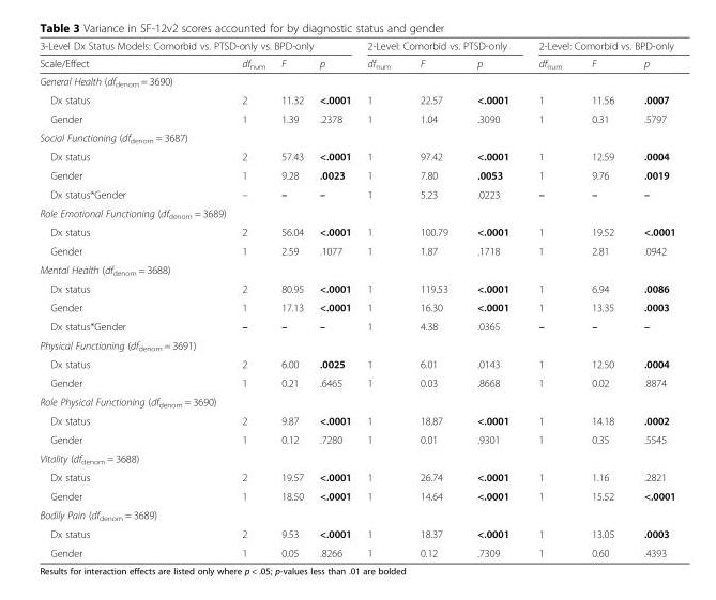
<table><thead><tr><td colspan="4">3-Level Dx Status Models: Comorbid vs. PTSD-only vs. BPD-only</td><td colspan="3">2-Level: Comorbid vs. PTSD-only</td><td colspan="3">2-Level: Comorbid vs. BPD-only</td></tr><tr><td>Scale/Effect</td><td>df<sub>num</sub></td><td>F</td><td>p</td><td>df<sub>num</sub></td><td>F</td><td>p</td><td>df<sub>num</sub></td><td>F</td><td>p</td></tr></thead><tbody><tr><td colspan="10">General Health (df<sub>denom</sub> = 3690)</td></tr><tr><td>Dx status</td><td>2</td><td>11.32</td><td>&lt;.0001</td><td>1</td><td>22.57</td><td>&lt;.0001</td><td>1</td><td>11.56</td><td>.0007</td></tr><tr><td>Gender</td><td>1</td><td>1.39</td><td>.2378</td><td>1</td><td>1.04</td><td>.3090</td><td>1</td><td>0.31</td><td>.5797</td></tr><tr><td colspan="10">Social Functioning (df<sub>denom</sub> = 3687)</td></tr><tr><td>Dx status</td><td>2</td><td>57.43</td><td>&lt;.0001</td><td>1</td><td>97.42</td><td>&lt;.0001</td><td>1</td><td>12.59</td><td>.0004</td></tr><tr><td>Gender</td><td>1</td><td>9.28</td><td>.0023</td><td>1</td><td>7.80</td><td>.0053</td><td>1</td><td>9.76</td><td>.0019</td></tr><tr><td>Dx status*Gender</td><td>–</td><td>–</td><td>–</td><td>1</td><td>5.23</td><td>.0223</td><td>–</td><td>–</td><td>–</td></tr><tr><td colspan="10">Role Emotional Functioning (df<sub>denom</sub> = 3689)</td></tr><tr><td>Dx status</td><td>2</td><td>56.04</td><td>&lt;.0001</td><td>1</td><td>100.79</td><td>&lt;.0001</td><td>1</td><td>19.52</td><td>&lt;.0001</td></tr><tr><td>Gender</td><td>1</td><td>2.59</td><td>.1077</td><td>1</td><td>1.87</td><td>.1718</td><td>1</td><td>2.81</td><td>.0942</td></tr><tr><td colspan="10">Mental Health (df<sub>denom</sub> = 3688)</td></tr><tr><td>Dx status</td><td>2</td><td>80.95</td><td>&lt;.0001</td><td>1</td><td>119.53</td><td>&lt;.0001</td><td>1</td><td>6.94</td><td>.0086</td></tr><tr><td>Gender</td><td>1</td><td>17.13</td><td>&lt;.0001</td><td>1</td><td>16.30</td><td>&lt;.0001</td><td>1</td><td>13.35</td><td>.0003</td></tr><tr><td>Dx status*Gender</td><td>–</td><td>–</td><td>–</td><td>1</td><td>4.38</td><td>.0365</td><td>–</td><td>–</td><td>–</td></tr><tr><td colspan="10">Physical Functioning (df<sub>denom</sub> = 3691)</td></tr><tr><td>Dx status</td><td>2</td><td>6.00</td><td>.0025</td><td>1</td><td>6.01</td><td>.0143</td><td>1</td><td>12.50</td><td>.0004</td></tr><tr><td>Gender</td><td>1</td><td>0.21</td><td>.6465</td><td>1</td><td>0.03</td><td>.8668</td><td>1</td><td>0.02</td><td>.8874</td></tr><tr><td colspan="10">Role Physical Functioning (df<sub>denom</sub> = 3690)</td></tr><tr><td>Dx status</td><td>2</td><td>9.87</td><td>&lt;.0001</td><td>1</td><td>18.87</td><td>&lt;.0001</td><td>1</td><td>14.18</td><td>.0002</td></tr><tr><td>Gender</td><td>1</td><td>0.12</td><td>.7280</td><td>1</td><td>0.01</td><td>.9301</td><td>1</td><td>0.35</td><td>.5545</td></tr><tr><td colspan="10">Vitality (df<sub>denom</sub> = 3688)</td></tr><tr><td>Dx status</td><td>2</td><td>19.57</td><td>&lt;.0001</td><td>1</td><td>26.74</td><td>&lt;.0001</td><td>1</td><td>1.16</td><td>.2821</td></tr><tr><td>Gender</td><td>1</td><td>18.50</td><td>&lt;.0001</td><td>1</td><td>14.64</td><td>&lt;.0001</td><td>1</td><td>15.52</td><td>&lt;.0001</td></tr><tr><td colspan="10">Bodily Pain (df<sub>denom</sub> = 3689)</td></tr><tr><td>Dx status</td><td>2</td><td>9.53</td><td>&lt;.0001</td><td>1</td><td>18.37</td><td>&lt;.0001</td><td>1</td><td>13.05</td><td>.0003</td></tr><tr><td>Gender</td><td>1</td><td>0.05</td><td>.8266</td><td>1</td><td>0.12</td><td>.7309</td><td>1</td><td>0.60</td><td>.4393</td></tr></tbody></table>